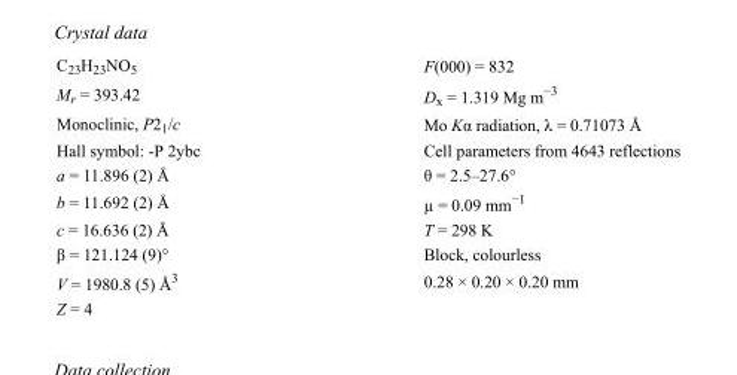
<table><tbody><tr><td>C<sub>23</sub>H<sub>23</sub>NO<sub>5</sub></td><td>F(000) = 832</td></tr><tr><td>M<sub>r</sub> = 393.42</td><td>D<sub>x</sub> = 1.319 Mg m<sup>−3</sup></td></tr><tr><td>Monoclinic, P2<sub>1</sub>/c</td><td>Mo Kα radiation, λ = 0.71073 Å</td></tr><tr><td>Hall symbol: -P 2ybc</td><td>Cell parameters from 4643 reflections</td></tr><tr><td>a = 11.896 (2) Å</td><td>θ = 2.5–27.6°</td></tr><tr><td>b = 11.692 (2) Å</td><td>µ = 0.09 mm<sup>−1</sup></td></tr><tr><td>c = 16.636 (2) Å</td><td>T = 298 K</td></tr><tr><td>β = 121.124 (9)°</td><td>Block, colourless</td></tr><tr><td>V = 1980.8 (5) Å<sup>3</sup></td><td>0.28 × 0.20 × 0.20 mm</td></tr><tr><td>Z = 4</td><td></td></tr></tbody></table>